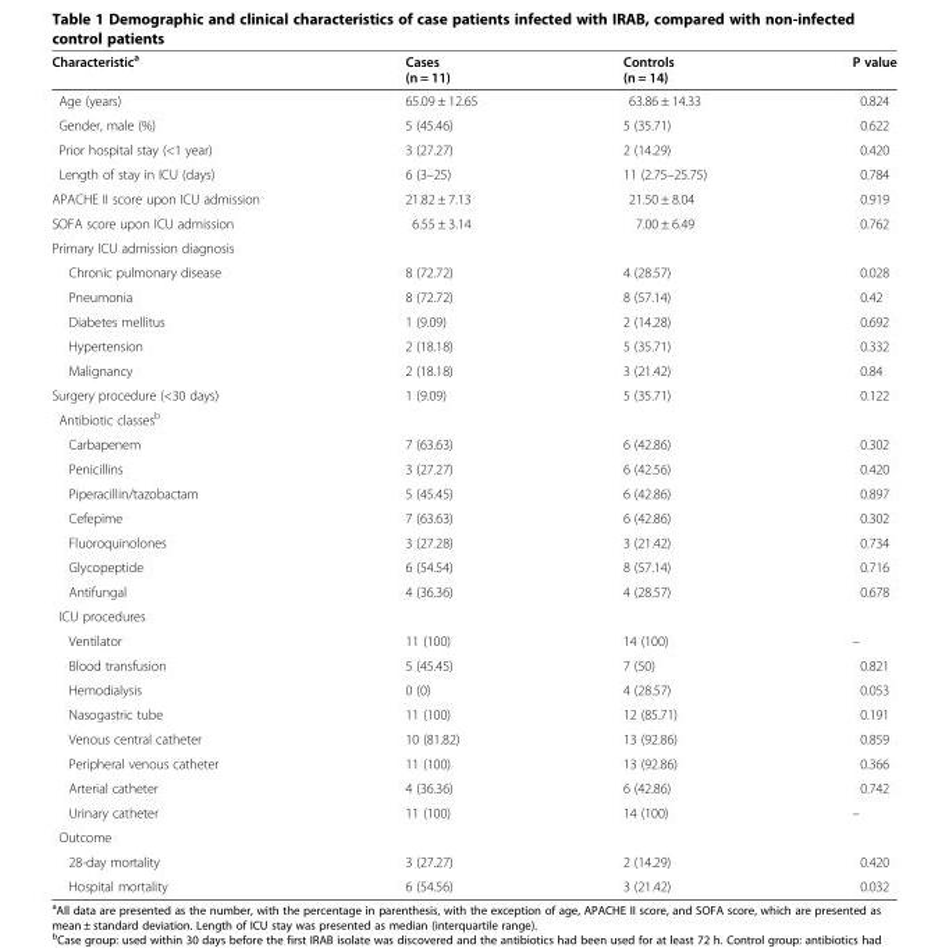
<table><thead><tr><td>Characteristic<sup>a</sup></td><td>Cases (n = 11)</td><td>Controls (n = 14)</td><td>P value</td></tr></thead><tbody><tr><td>Age (years)</td><td>65.09 ± 12.65</td><td>63.86 ± 14.33</td><td>0.824</td></tr><tr><td>Gender, male (%)</td><td>5 (45.46)</td><td>5 (35.71)</td><td>0.622</td></tr><tr><td>Prior hospital stay (&lt;1 year)</td><td>3 (27.27)</td><td>2 (14.29)</td><td>0.420</td></tr><tr><td>Length of stay in ICU (days)</td><td>6 (3–25)</td><td>11 (2.75–25.75)</td><td>0.784</td></tr><tr><td>APACHE II score upon ICU admission</td><td>21.82 ± 7.13</td><td>21.50 ± 8.04</td><td>0.919</td></tr><tr><td>SOFA score upon ICU admission</td><td>6.55 ± 3.14</td><td>7.00 ± 6.49</td><td>0.762</td></tr><tr><td colspan="4">Primary ICU admission diagnosis</td></tr><tr><td>Chronic pulmonary disease</td><td>8 (72.72)</td><td>4 (28.57)</td><td>0.028</td></tr><tr><td>Pneumonia</td><td>8 (72.72)</td><td>8 (57.14)</td><td>0.42</td></tr><tr><td>Diabetes mellitus</td><td>1 (9.09)</td><td>2 (14.28)</td><td>0.692</td></tr><tr><td>Hypertension</td><td>2 (18.18)</td><td>5 (35.71)</td><td>0.332</td></tr><tr><td>Malignancy</td><td>2 (18.18)</td><td>3 (21.42)</td><td>0.84</td></tr><tr><td>Surgery procedure (&lt;30 days)</td><td>1 (9.09)</td><td>5 (35.71)</td><td>0.122</td></tr><tr><td colspan="4">Antibiotic classes<sup>b</sup></td></tr><tr><td>Carbapenem</td><td>7 (63.63)</td><td>6 (42.86)</td><td>0.302</td></tr><tr><td>Penicillins</td><td>3 (27.27)</td><td>6 (42.56)</td><td>0.420</td></tr><tr><td>Piperacillin/tazobactam</td><td>5 (45.45)</td><td>6 (42.86)</td><td>0.897</td></tr><tr><td>Cefepime</td><td>7 (63.63)</td><td>6 (42.86)</td><td>0.302</td></tr><tr><td>Fluoroquinolones</td><td>3 (27.28)</td><td>3 (21.42)</td><td>0.734</td></tr><tr><td>Glycopeptide</td><td>6 (54.54)</td><td>8 (57.14)</td><td>0.716</td></tr><tr><td>Antifungal</td><td>4 (36.36)</td><td>4 (28.57)</td><td>0.678</td></tr><tr><td colspan="4">ICU procedures</td></tr><tr><td>Ventilator</td><td>11 (100)</td><td>14 (100)</td><td>–</td></tr><tr><td>Blood transfusion</td><td>5 (45.45)</td><td>7 (50)</td><td>0.821</td></tr><tr><td>Hemodialysis</td><td>0 (0)</td><td>4 (28.57)</td><td>0.053</td></tr><tr><td>Nasogastric tube</td><td>11 (100)</td><td>12 (85.71)</td><td>0.191</td></tr><tr><td>Venous central catheter</td><td>10 (81.82)</td><td>13 (92.86)</td><td>0.859</td></tr><tr><td>Peripheral venous catheter</td><td>11 (100)</td><td>13 (92.86)</td><td>0.366</td></tr><tr><td>Arterial catheter</td><td>4 (36.36)</td><td>6 (42.86)</td><td>0.742</td></tr><tr><td>Urinary catheter</td><td>11 (100)</td><td>14 (100)</td><td>–</td></tr><tr><td colspan="4">Outcome</td></tr><tr><td>28-day mortality</td><td>3 (27.27)</td><td>2 (14.29)</td><td>0.420</td></tr><tr><td>Hospital mortality</td><td>6 (54.56)</td><td>3 (21.42)</td><td>0.032</td></tr></tbody></table>